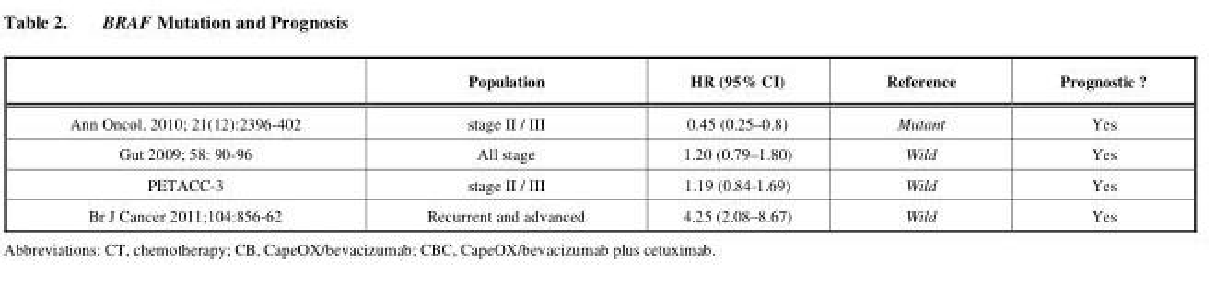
<table><thead><tr><td></td><td>Population</td><td>HR (95% CI)</td><td>Reference</td><td>Prognostic ?</td></tr></thead><tbody><tr><td>Ann Oncol. 2010; 21(12):2396-402</td><td>stage II / III</td><td>0.45 (0.25–0.8)</td><td>Mutant</td><td>Yes</td></tr><tr><td>Gut 2009; 58: 90-96</td><td>All stage</td><td>1.20 (0.79–1.80)</td><td>Wild</td><td>Yes</td></tr><tr><td>PETACC-3</td><td>stage II / III</td><td>1.19 (0.84-1.69)</td><td>Wild</td><td>Yes</td></tr><tr><td>Br J Cancer 2011;104:856-62</td><td>Recurrent and advanced</td><td>4.25 (2.08–8.67)</td><td>Wild</td><td>Yes</td></tr></tbody></table>